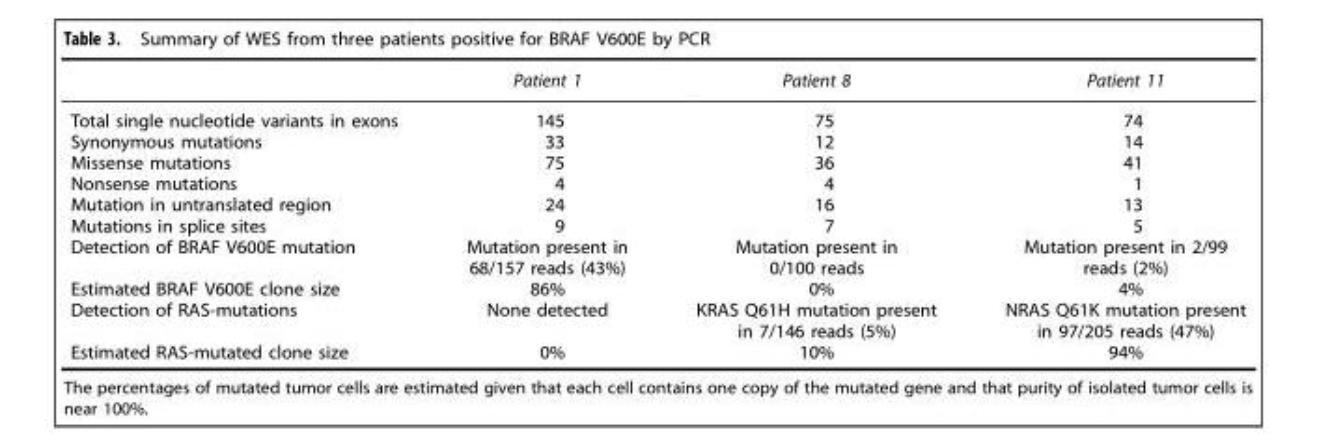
<table><thead><tr><td></td><td>Patient 1</td><td>Patient 8</td><td>Patient 11</td></tr></thead><tbody><tr><td>Total single nucleotide variants in exons</td><td>145</td><td>75</td><td>74</td></tr><tr><td>Synonymous mutations</td><td>33</td><td>12</td><td>14</td></tr><tr><td>Missense mutations</td><td>75</td><td>36</td><td>41</td></tr><tr><td>Nonsense mutations</td><td>4</td><td>4</td><td>1</td></tr><tr><td>Mutation in untranslated region</td><td>24</td><td>16</td><td>13</td></tr><tr><td>Mutations in splice sites</td><td>9</td><td>7</td><td>5</td></tr><tr><td>Detection of BRAF V600E mutation</td><td>Mutation present in 68/157 reads (43%)</td><td>Mutation present in 0/100 reads</td><td>Mutation present in 2/99 reads (2%)</td></tr><tr><td>Estimated BRAF V600E clone size</td><td>86%</td><td>0%</td><td>4%</td></tr><tr><td>Detection of RAS-mutations</td><td>None detected</td><td>KRAS Q61H mutation present in 7/146 reads (5%)</td><td>NRAS Q61K mutation present in 97/205 reads (47%)</td></tr><tr><td>Estimated RAS-mutated clone size</td><td>0%</td><td>10%</td><td>94%</td></tr></tbody></table>